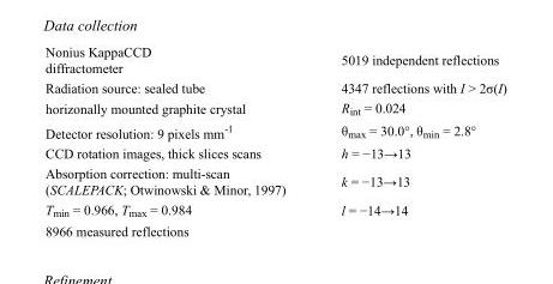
<table><tbody><tr><td>Nonius KappaCCD diffractometer</td><td>5019 independent reflections</td></tr><tr><td>Radiation source: sealed tube</td><td>4347 reflections with I &gt; 2σ(I)</td></tr><tr><td>horizonally mounted graphite crystal</td><td>R<sub>int</sub> = 0.024</td></tr><tr><td>Detector resolution: 9 pixels mm<sup>-1</sup></td><td>θ<sub>max</sub> = 30.0°, θ<sub>min</sub> = 2.8°</td></tr><tr><td>CCD rotation images, thick slices scans</td><td>h = −13→13</td></tr><tr><td>Absorption correction: multi-scan (SCALEPACK; Otwinowski &amp; Minor, 1997)</td><td>k = −13→13</td></tr><tr><td>T<sub>min</sub> = 0.966, T<sub>max</sub> = 0.984</td><td>l = −14→14</td></tr><tr><td>8966 measured reflections</td><td></td></tr></tbody></table>